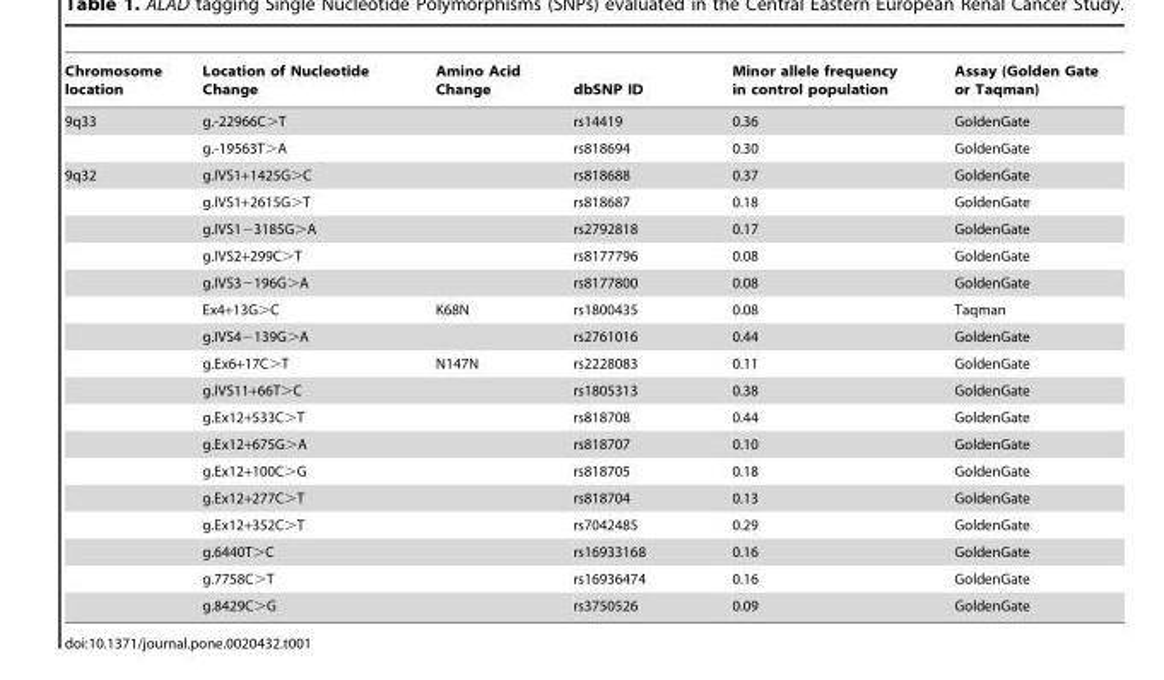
<table><thead><tr><td>Chromosome location</td><td>Location of Nucleotide Change</td><td>Amino Acid Change</td><td>dbSNP ID</td><td>Minor allele frequency in control population</td><td>Assay (Golden Gate or Taqman)</td></tr></thead><tbody><tr><td rowspan="2">9q33</td><td>g.-22966C&gt;T</td><td></td><td>rs14419</td><td>0.36</td><td>GoldenGate</td></tr><tr><td>g.-19563T&gt;A</td><td></td><td>rs818694</td><td>0.30</td><td>GoldenGate</td></tr><tr><td rowspan="17">9q32</td><td>g.IVS1+1425G&gt;C</td><td></td><td>rs818688</td><td>0.37</td><td>GoldenGate</td></tr><tr><td>g.IVS1+2615G&gt;T</td><td></td><td>rs818687</td><td>0.18</td><td>GoldenGate</td></tr><tr><td>g.IVS1−3185G&gt;A</td><td></td><td>rs2792818</td><td>0.17</td><td>GoldenGate</td></tr><tr><td>g.IVS2+299C&gt;T</td><td></td><td>rs8177796</td><td>0.08</td><td>GoldenGate</td></tr><tr><td>g.IVS3−196G&gt;A</td><td></td><td>rs8177800</td><td>0.08</td><td>GoldenGate</td></tr><tr><td>Ex4+13G&gt;C</td><td>K68N</td><td>rs1800435</td><td>0.08</td><td>Taqman</td></tr><tr><td>g.IVS4−139G&gt;A</td><td></td><td>rs2761016</td><td>0.44</td><td>GoldenGate</td></tr><tr><td>g.Ex6+17C&gt;T</td><td>N147N</td><td>rs2228083</td><td>0.11</td><td>GoldenGate</td></tr><tr><td>g.IVS11+66T&gt;C</td><td></td><td>rs1805313</td><td>0.38</td><td>GoldenGate</td></tr><tr><td>g.Ex12+533C&gt;T</td><td></td><td>rs818708</td><td>0.44</td><td>GoldenGate</td></tr><tr><td>g.Ex12+675G&gt;A</td><td></td><td>rs818707</td><td>0.10</td><td>GoldenGate</td></tr><tr><td>g.Ex12+100C&gt;G</td><td></td><td>rs818705</td><td>0.18</td><td>GoldenGate</td></tr><tr><td>g.Ex12+277C&gt;T</td><td></td><td>rs818704</td><td>0.13</td><td>GoldenGate</td></tr><tr><td>g.Ex12+352C&gt;T</td><td></td><td>rs7042485</td><td>0.29</td><td>GoldenGate</td></tr><tr><td>g.6440T&gt;C</td><td></td><td>rs16933168</td><td>0.16</td><td>GoldenGate</td></tr><tr><td>g.7758C&gt;T</td><td></td><td>rs16936474</td><td>0.16</td><td>GoldenGate</td></tr><tr><td>g.8429C&gt;G</td><td></td><td>rs3750526</td><td>0.09</td><td>GoldenGate</td></tr></tbody></table>